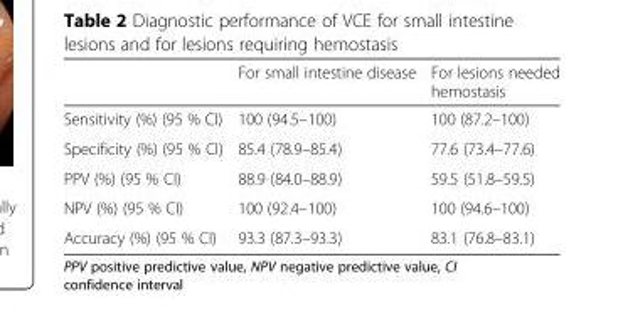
<table><thead><tr><td></td><td>For small intestine disease</td><td>For lesions needed hemostasis</td></tr></thead><tbody><tr><td>Sensitivity (%) (95 % CI)</td><td>100 (94.5–100)</td><td>100 (87.2–100)</td></tr><tr><td>Specificity (%) (95 % CI)</td><td>85.4 (78.9–85.4)</td><td>77.6 (73.4–77.6)</td></tr><tr><td>PPV (%) (95 % CI)</td><td>88.9 (84.0–88.9)</td><td>59.5 (51.8–59.5)</td></tr><tr><td>NPV (%) (95 % CI)</td><td>100 (92.4–100)</td><td>100 (94.6–100)</td></tr><tr><td>Accuracy (%) (95 % CI)</td><td>93.3 (87.3–93.3)</td><td>83.1 (76.8–83.1)</td></tr></tbody></table>